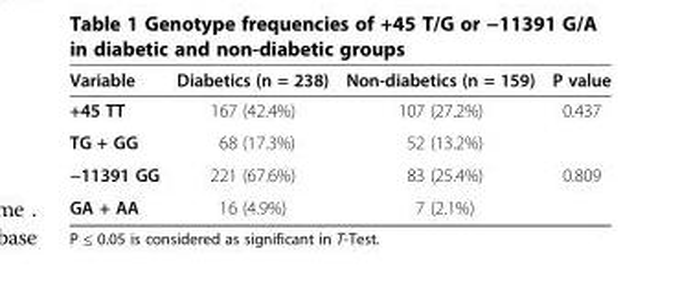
<table><thead><tr><td>Variable</td><td>Diabetics (n = 238)</td><td>Non-diabetics (n = 159)</td><td>P value</td></tr></thead><tbody><tr><td>+45 TT</td><td>167 (42.4%)</td><td>107 (27.2%)</td><td rowspan="2">0.437</td></tr><tr><td>TG + GG</td><td>68 (17.3%)</td><td>52 (13.2%)</td></tr><tr><td>−11391 GG</td><td>221 (67.6%)</td><td>83 (25.4%)</td><td>0.809</td></tr><tr><td>GA + AA</td><td>16 (4.9%)</td><td>7 (2.1%)</td><td></td></tr></tbody></table>